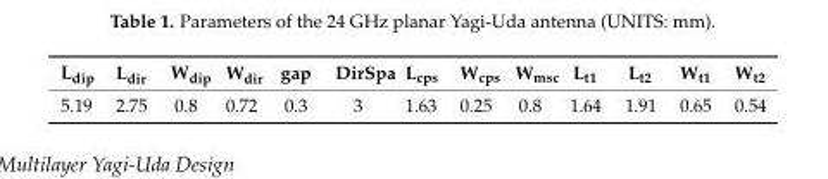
<table><thead><tr><td>L<sub>dip</sub></td><td>L<sub>dir</sub></td><td>W<sub>dip</sub></td><td>W<sub>dir</sub></td><td>gap</td><td>DirSpa</td><td>L<sub>cps</sub></td><td>W<sub>cps</sub></td><td>W<sub>msc</sub></td><td>L<sub>t1</sub></td><td>L<sub>t2</sub></td><td>W<sub>t1</sub></td><td>W<sub>t2</sub></td></tr></thead><tbody><tr><td>5.19</td><td>2.75</td><td>0.8</td><td>0.72</td><td>0.3</td><td>3</td><td>1.63</td><td>0.25</td><td>0.8</td><td>1.64</td><td>1.91</td><td>0.65</td><td>0.54</td></tr></tbody></table>